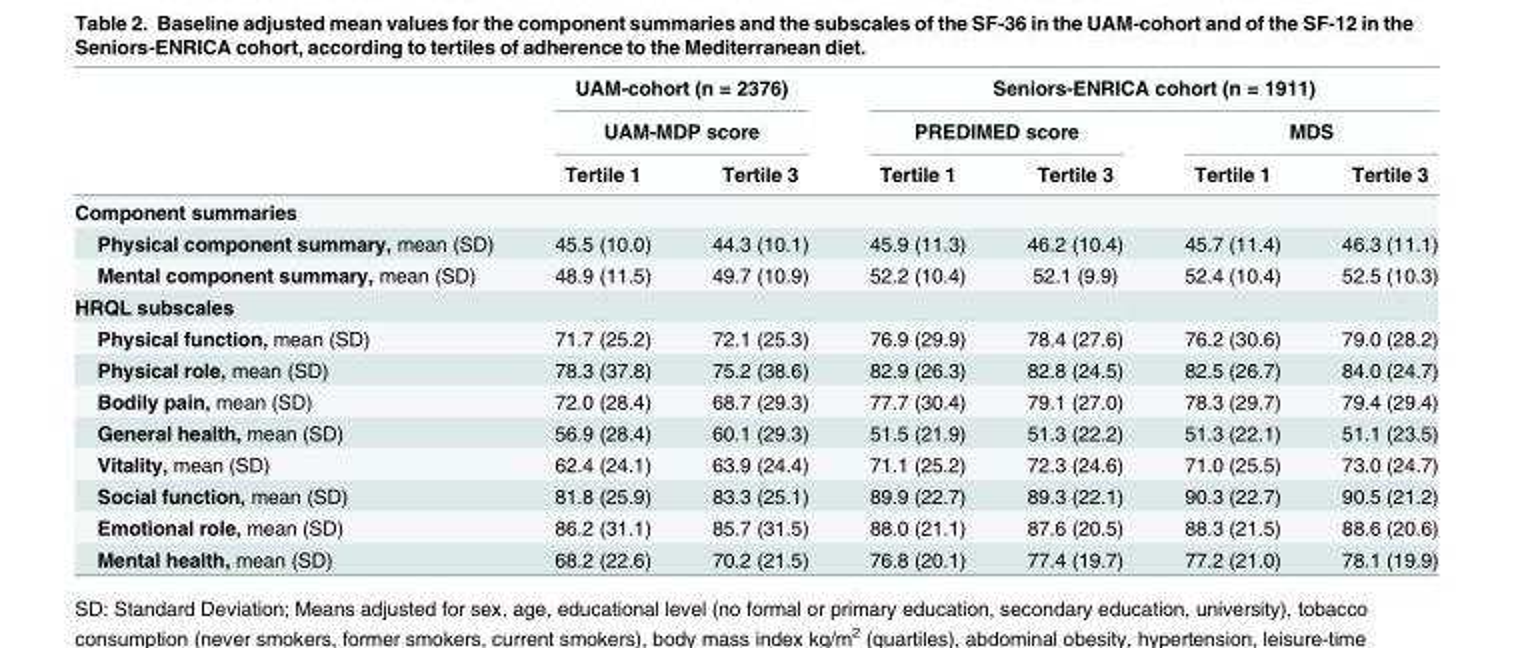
<table><thead><tr><td rowspan="3"></td><td rowspan="2" colspan="2">UAM-cohort (n = 2376) UAM-MDP score</td><td colspan="4">Seniors-ENRICA cohort (n = 1911)</td></tr><tr><td colspan="2">PREDIMED score</td><td colspan="2">MDS</td></tr><tr><td>Tertile 1</td><td>Tertile 3</td><td>Tertile 1</td><td>Tertile 3</td><td>Tertile 1</td><td>Tertile 3</td></tr></thead><tbody><tr><td colspan="7">Component summaries</td></tr><tr><td>Physical component summary, mean (SD)</td><td>45.5 (10.0)</td><td>44.3 (10.1)</td><td>45.9 (11.3)</td><td>46.2 (10.4)</td><td>45.7 (11.4)</td><td>46.3 (11.1)</td></tr><tr><td>Mental component summary, mean (SD)</td><td>48.9 (11.5)</td><td>49.7 (10.9)</td><td>52.2 (10.4)</td><td>52.1 (9.9)</td><td>52.4 (10.4)</td><td>52.5 (10.3)</td></tr><tr><td colspan="7">HRQL subscales</td></tr><tr><td>Physical function, mean (SD)</td><td>71.7 (25.2)</td><td>72.1 (25.3)</td><td>76.9 (29.9)</td><td>78.4 (27.6)</td><td>76.2 (30.6)</td><td>79.0 (28.2)</td></tr><tr><td>Physical role, mean (SD)</td><td>78.3 (37.8)</td><td>75.2 (38.6)</td><td>82.9 (26.3)</td><td>82.8 (24.5)</td><td>82.5 (26.7)</td><td>84.0 (24.7)</td></tr><tr><td>Bodily pain, mean (SD)</td><td>72.0 (28.4)</td><td>68.7 (29.3)</td><td>77.7 (30.4)</td><td>79.1 (27.0)</td><td>78.3 (29.7)</td><td>79.4 (29.4)</td></tr><tr><td>General health, mean (SD)</td><td>56.9 (28.4)</td><td>60.1 (29.3)</td><td>51.5 (21.9)</td><td>51.3 (22.2)</td><td>51.3 (22.1)</td><td>51.1 (23.5)</td></tr><tr><td>Vitality, mean (SD)</td><td>62.4 (24.1)</td><td>63.9 (24.4)</td><td>71.1 (25.2)</td><td>72.3 (24.6)</td><td>71.0 (25.5)</td><td>73.0 (24.7)</td></tr><tr><td>Social function, mean (SD)</td><td>81.8 (25.9)</td><td>83.3 (25.1)</td><td>89.9 (22.7)</td><td>89.3 (22.1)</td><td>90.3 (22.7)</td><td>90.5 (21.2)</td></tr><tr><td>Emotional role, mean (SD)</td><td>86.2 (31.1)</td><td>85.7 (31.5)</td><td>88.0 (21.1)</td><td>87.6 (20.5)</td><td>88.3 (21.5)</td><td>88.6 (20.6)</td></tr><tr><td>Mental health, mean (SD)</td><td>68.2 (22.6)</td><td>70.2 (21.5)</td><td>76.8 (20.1)</td><td>77.4 (19.7)</td><td>77.2 (21.0)</td><td>78.1 (19.9)</td></tr></tbody></table>